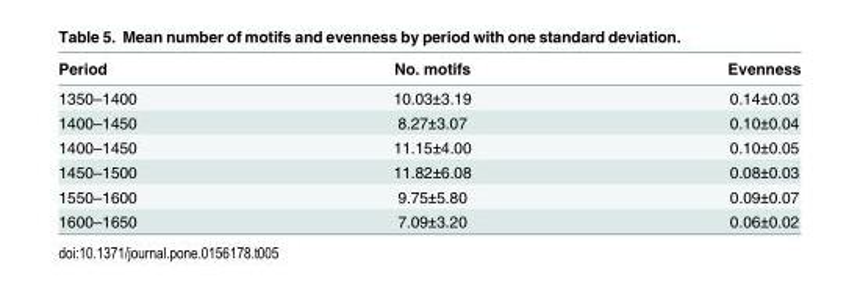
<table><thead><tr><td>Period</td><td>No. motifs</td><td>Evenness</td></tr></thead><tbody><tr><td>1350–1400</td><td>10.03±3.19</td><td>0.14±0.03</td></tr><tr><td>1400–1450</td><td>8.27±3.07</td><td>0.10±0.04</td></tr><tr><td>1400–1450</td><td>11.15±4.00</td><td>0.10±0.05</td></tr><tr><td>1450–1500</td><td>11.82±6.08</td><td>0.08±0.03</td></tr><tr><td>1550–1600</td><td>9.75±5.80</td><td>0.09±0.07</td></tr><tr><td>1600–1650</td><td>7.09±3.20</td><td>0.06±0.02</td></tr></tbody></table>